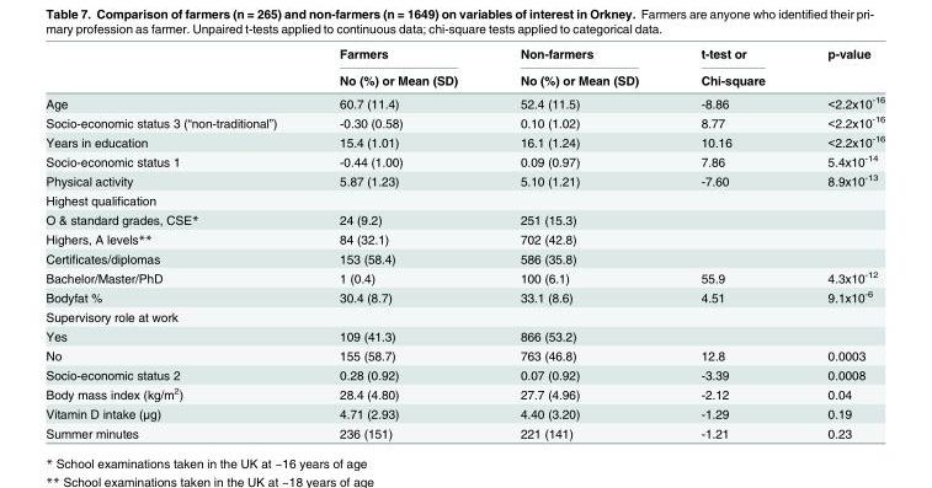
<table><thead><tr><td rowspan="2"></td><td rowspan="2">Farmers No (%) or Mean (SD)</td><td rowspan="2">Non-farmers No (%) or Mean (SD)</td><td rowspan="2">t-test or Chi-square</td><td rowspan="2">p-value</td></tr><tr></tr></thead><tbody><tr><td>Age</td><td>60.7 (11.4)</td><td>52.4 (11.5)</td><td>-8.86</td><td>&lt;2.2x10<sup>-16</sup></td></tr><tr><td>Socio-economic status 3 (“non-traditional”)</td><td>-0.30 (0.58)</td><td>0.10 (1.02)</td><td>8.77</td><td>&lt;2.2x10<sup>-16</sup></td></tr><tr><td>Years in education</td><td>15.4 (1.01)</td><td>16.1 (1.24)</td><td>10.16</td><td>&lt;2.2x10<sup>-16</sup></td></tr><tr><td>Socio-economic status 1</td><td>-0.44 (1.00)</td><td>0.09 (0.97)</td><td>7.86</td><td>5.4x10<sup>-14</sup></td></tr><tr><td>Physical activity</td><td>5.87 (1.23)</td><td>5.10 (1.21)</td><td>-7.60</td><td>8.9x10<sup>-13</sup></td></tr><tr><td colspan="5">Highest qualification</td></tr><tr><td>O &amp; standard grades, CSE*</td><td>24 (9.2)</td><td>251 (15.3)</td><td></td><td></td></tr><tr><td>Highers, A levels**</td><td>84 (32.1)</td><td>702 (42.8)</td><td></td><td></td></tr><tr><td>Certificates/diplomas</td><td>153 (58.4)</td><td>586 (35.8)</td><td></td><td></td></tr><tr><td>Bachelor/Master/PhD</td><td>1 (0.4)</td><td>100 (6.1)</td><td>55.9</td><td>4.3x10<sup>-12</sup></td></tr><tr><td>Bodyfat %</td><td>30.4 (8.7)</td><td>33.1 (8.6)</td><td>4.51</td><td>9.1x10<sup>-6</sup></td></tr><tr><td colspan="5">Supervisory role at work</td></tr><tr><td>Yes</td><td>109 (41.3)</td><td>866 (53.2)</td><td></td><td></td></tr><tr><td>No</td><td>155 (58.7)</td><td>763 (46.8)</td><td>12.8</td><td>0.0003</td></tr><tr><td>Socio-economic status 2</td><td>0.28 (0.92)</td><td>0.07 (0.92)</td><td>-3.39</td><td>0.0008</td></tr><tr><td>Body mass index (kg/m<sup>2</sup>)</td><td>28.4 (4.80)</td><td>27.7 (4.96)</td><td>-2.12</td><td>0.04</td></tr><tr><td>Vitamin D intake (μg)</td><td>4.71 (2.93)</td><td>4.40 (3.20)</td><td>-1.29</td><td>0.19</td></tr><tr><td>Summer minutes</td><td>236 (151)</td><td>221 (141)</td><td>-1.21</td><td>0.23</td></tr></tbody></table>